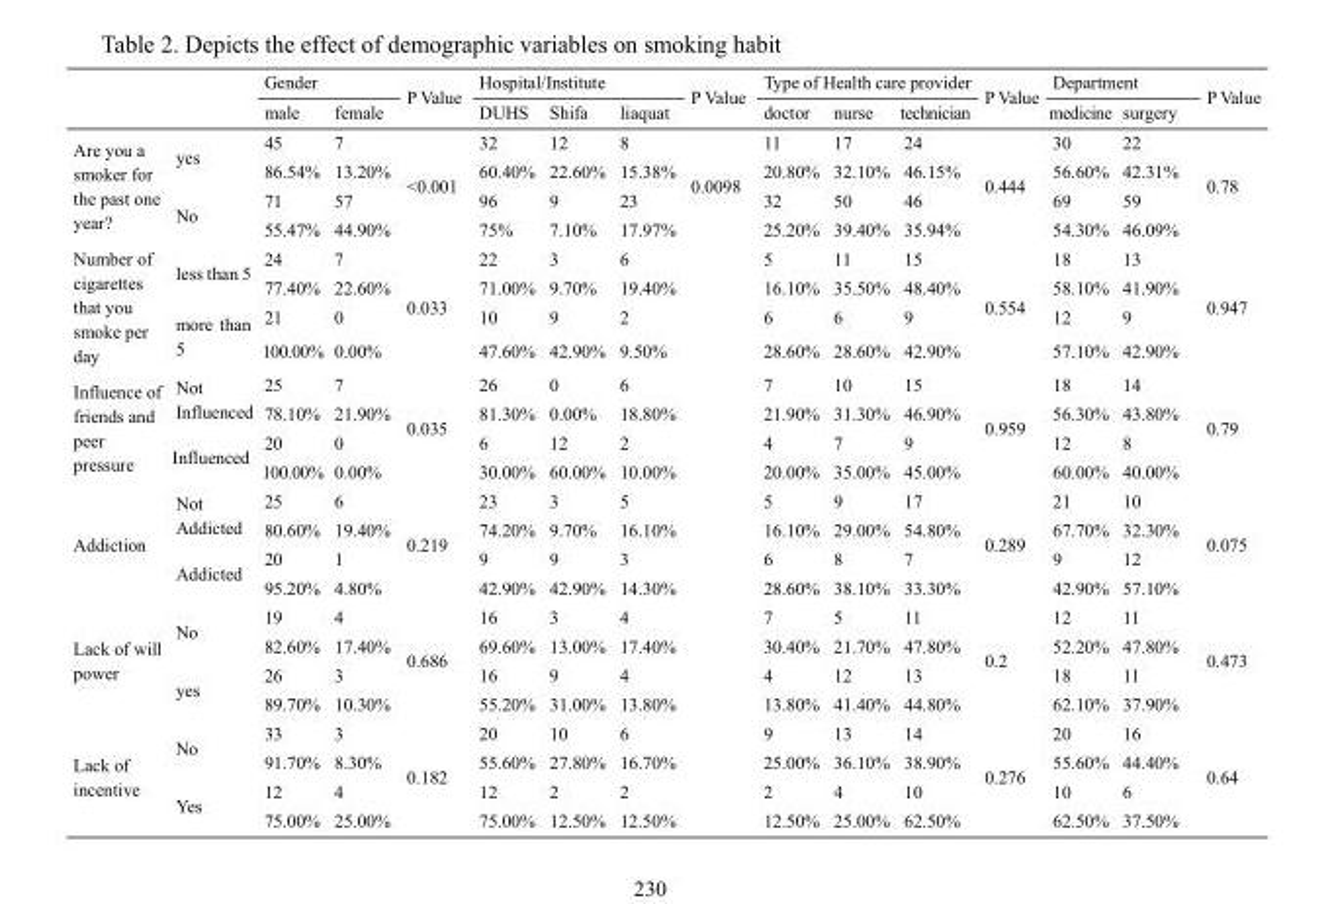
<table><thead><tr><td rowspan="2"></td><td rowspan="2"></td><td colspan="2">Gender</td><td rowspan="2">P Value</td><td colspan="3">Hospital/Institute</td><td rowspan="2">P Value</td><td colspan="3">Type of Health care provider</td><td rowspan="2">P Value</td><td colspan="2">Department</td><td rowspan="2">P Value</td></tr><tr><td>male</td><td>female</td><td>DUHS</td><td>Shifa</td><td>liaquat</td><td>doctor</td><td>nurse</td><td>technician</td><td>medicine</td><td>surgery</td></tr></thead><tbody><tr><td rowspan="4">Are you a smoker for the past one year?</td><td rowspan="2">yes</td><td>45</td><td>7</td><td rowspan="4">&lt;0.001</td><td>32</td><td>12</td><td>8</td><td rowspan="4">0.0098</td><td>11</td><td>17</td><td>24</td><td rowspan="4">0.444</td><td>30</td><td>22</td><td rowspan="4">0.78</td></tr><tr><td>86.54%</td><td>13.20%</td><td>60.40%</td><td>22.60%</td><td>15.38%</td><td>20.80%</td><td>32.10%</td><td>46.15%</td><td>56.60%</td><td>42.31%</td></tr><tr><td rowspan="2">No</td><td>71</td><td>57</td><td>96</td><td>9</td><td>23</td><td>32</td><td>50</td><td>46</td><td>69</td><td>59</td></tr><tr><td>55.47%</td><td>44.90%</td><td>75%</td><td>7.10%</td><td>17.97%</td><td>25.20%</td><td>39.40%</td><td>35.94%</td><td>54.30%</td><td>46.09%</td></tr><tr><td rowspan="4">Number of cigarettes that you smoke per day</td><td rowspan="2">less than 5</td><td>24</td><td>7</td><td rowspan="4">0.033</td><td>22</td><td>3</td><td>6</td><td rowspan="4"></td><td>5</td><td>11</td><td>15</td><td rowspan="4">0.554</td><td>18</td><td>13</td><td rowspan="4">0.947</td></tr><tr><td>77.40%</td><td>22.60%</td><td>71.00%</td><td>9.70%</td><td>19.40%</td><td>16.10%</td><td>35.50%</td><td>48.40%</td><td>58.10%</td><td>41.90%</td></tr><tr><td rowspan="2">more than 5</td><td>21</td><td>0</td><td>10</td><td>9</td><td>2</td><td>6</td><td>6</td><td>9</td><td>12</td><td>9</td></tr><tr><td>100.00%</td><td>0.00%</td><td>47.60%</td><td>42.90%</td><td>9.50%</td><td>28.60%</td><td>28.60%</td><td>42.90%</td><td>57.10%</td><td>42.90%</td></tr><tr><td rowspan="4">Influence of friends and peer pressure</td><td rowspan="2">Not Influenced</td><td>25</td><td>7</td><td rowspan="4">0.035</td><td>26</td><td>0</td><td>6</td><td rowspan="4"></td><td>7</td><td>10</td><td>15</td><td rowspan="4">0.959</td><td>18</td><td>14</td><td rowspan="4">0.79</td></tr><tr><td>78.10%</td><td>21.90%</td><td>81.30%</td><td>0.00%</td><td>18.80%</td><td>21.90%</td><td>31.30%</td><td>46.90%</td><td>56.30%</td><td>43.80%</td></tr><tr><td rowspan="2">Influenced</td><td>20</td><td>0</td><td>6</td><td>12</td><td>2</td><td>4</td><td>7</td><td>9</td><td>12</td><td>8</td></tr><tr><td>100.00%</td><td>0.00%</td><td>30.00%</td><td>60.00%</td><td>10.00%</td><td>20.00%</td><td>35.00%</td><td>45.00%</td><td>60.00%</td><td>40.00%</td></tr><tr><td rowspan="4">Addiction</td><td rowspan="2">Not Addicted</td><td>25</td><td>6</td><td rowspan="4">0.219</td><td>23</td><td>3</td><td>5</td><td rowspan="4"></td><td>5</td><td>9</td><td>17</td><td rowspan="4">0.289</td><td>21</td><td>10</td><td rowspan="4">0.075</td></tr><tr><td>80.60%</td><td>19.40%</td><td>74.20%</td><td>9.70%</td><td>16.10%</td><td>16.10%</td><td>29.00%</td><td>54.80%</td><td>67.70%</td><td>32.30%</td></tr><tr><td rowspan="2">Addicted</td><td>20</td><td>1</td><td>9</td><td>9</td><td>3</td><td>6</td><td>8</td><td>7</td><td>9</td><td>12</td></tr><tr><td>95.20%</td><td>4.80%</td><td>42.90%</td><td>42.90%</td><td>14.30%</td><td>28.60%</td><td>38.10%</td><td>33.30%</td><td>42.90%</td><td>57.10%</td></tr><tr><td rowspan="4">Lack of will power</td><td rowspan="2">No</td><td>19</td><td>4</td><td rowspan="4">0.686</td><td>16</td><td>3</td><td>4</td><td rowspan="4"></td><td>7</td><td>5</td><td>11</td><td rowspan="4">0.2</td><td>12</td><td>11</td><td rowspan="4">0.473</td></tr><tr><td>82.60%</td><td>17.40%</td><td>69.60%</td><td>13.00%</td><td>17.40%</td><td>30.40%</td><td>21.70%</td><td>47.80%</td><td>52.20%</td><td>47.80%</td></tr><tr><td rowspan="2">yes</td><td>26</td><td>3</td><td>16</td><td>9</td><td>4</td><td>4</td><td>12</td><td>13</td><td>18</td><td>11</td></tr><tr><td>89.70%</td><td>10.30%</td><td>55.20%</td><td>31.00%</td><td>13.80%</td><td>13.80%</td><td>41.40%</td><td>44.80%</td><td>62.10%</td><td>37.90%</td></tr><tr><td rowspan="4">Lack of incentive</td><td rowspan="2">No</td><td>33</td><td>3</td><td rowspan="4">0.182</td><td>20</td><td>10</td><td>6</td><td rowspan="4"></td><td>9</td><td>13</td><td>14</td><td rowspan="4">0.276</td><td>20</td><td>16</td><td rowspan="4">0.64</td></tr><tr><td>91.70%</td><td>8.30%</td><td>55.60%</td><td>27.80%</td><td>16.70%</td><td>25.00%</td><td>36.10%</td><td>38.90%</td><td>55.60%</td><td>44.40%</td></tr><tr><td rowspan="2">Yes</td><td>12</td><td>4</td><td>12</td><td>2</td><td>2</td><td>2</td><td>4</td><td>10</td><td>10</td><td>6</td></tr><tr><td>75.00%</td><td>25.00%</td><td>75.00%</td><td>12.50%</td><td>12.50%</td><td>12.50%</td><td>25.00%</td><td>62.50%</td><td>62.50%</td><td>37.50%</td></tr></tbody></table>